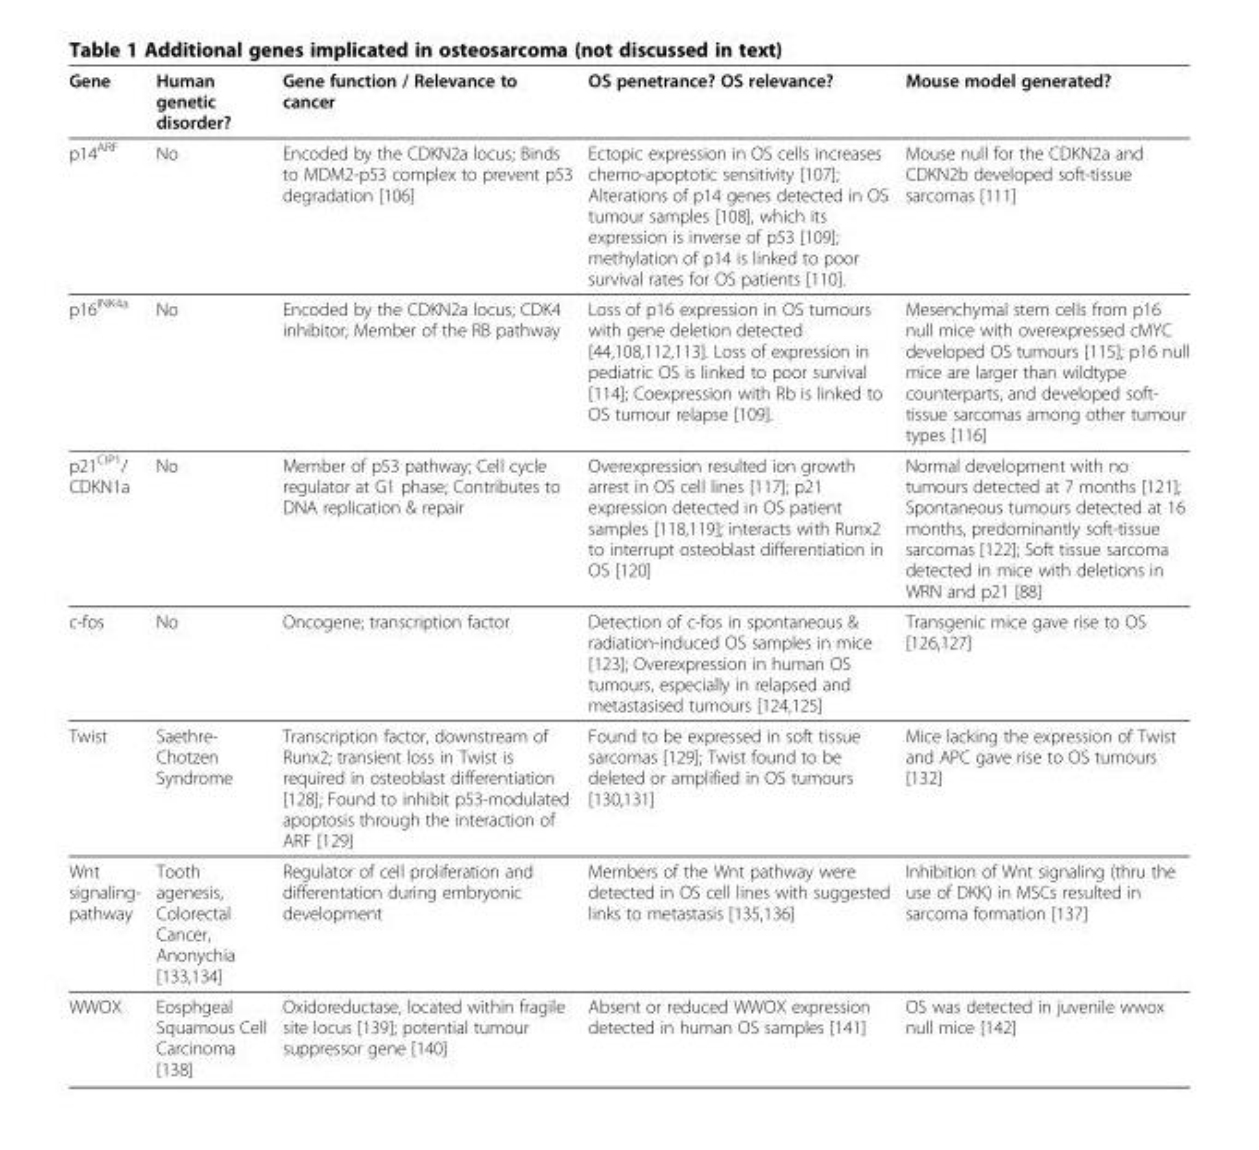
<table><thead><tr><td>Gene</td><td>Human genetic disorder?</td><td>Gene function / Relevance to cancer</td><td>OS penetrance? OS relevance?</td><td>Mouse model generated?</td></tr></thead><tbody><tr><td>p14<sup>ARF</sup></td><td>No</td><td>Encoded by the CDKN2a locus; Binds to MDM2-p53 complex to prevent p53 degradation [106]</td><td>Ectopic expression in OS cells increases chemo-apoptotic sensitivity [107]; Alterations of p14 genes detected in OS tumour samples [108], which its expression is inverse of p53 [109]; methylation of p14 is linked to poor survival rates for OS patients [110].</td><td>Mouse null for the CDKN2a and CDKN2b developed soft-tissue sarcomas [111]</td></tr><tr><td>p16<sup>INK4a</sup></td><td>No</td><td>Encoded by the CDKN2a locus; CDK4 inhibitor; Member of the RB pathway</td><td>Loss of p16 expression in OS tumours with gene deletion detected [44,108,112,113]. Loss of expression in pediatric OS is linked to poor survival [114]; Coexpression with Rb is linked to OS tumour relapse [109].</td><td>Mesenchymal stem cells from p16 null mice with overexpressed cMYC developed OS tumours [115]; p16 null mice are larger than wildtype counterparts, and developed soft- tissue sarcomas among other tumour types [116]</td></tr><tr><td>p21<sup>CIP1</sup>/ CDKN1a</td><td>No</td><td>Member of p53 pathway; Cell cycle regulator at G1 phase; Contributes to DNA replication &amp; repair</td><td>Overexpression resulted ion growth arrest in OS cell lines [117]; p21 expression detected in OS patient samples [118,119]; interacts with Runx2 to interrupt osteoblast differentiation in OS [120]</td><td>Normal development with no tumours detected at 7 months [121]; Spontaneous tumours detected at 16 months, predominantly soft-tissue sarcomas [122]; Soft tissue sarcoma detected in mice with deletions in WRN and p21 [88]</td></tr><tr><td>c-fos</td><td>No</td><td>Oncogene; transcription factor</td><td>Detection of c-fos in spontaneous &amp; radiation-induced OS samples in mice [123]; Overexpression in human OS tumours, especially in relapsed and metastasised tumours [124,125]</td><td>Transgenic mice gave rise to OS [126,127]</td></tr><tr><td>Twist</td><td>Saethre- Chotzen Syndrome</td><td>Transcription factor, downstream of Runx2; transient loss in Twist is required in osteoblast differentiation [128]; Found to inhibit p53-modulated apoptosis through the interaction of ARF [129]</td><td>Found to be expressed in soft tissue sarcomas [129]; Twist found to be deleted or amplified in OS tumours [130,131]</td><td>Mice lacking the expression of Twist and APC gave rise to OS tumours [132]</td></tr><tr><td>Wnt signaling- pathway</td><td>Tooth agenesis, Colorectal Cancer, Anonychia [133,134]</td><td>Regulator of cell proliferation and differentation during embryonic development</td><td>Members of the Wnt pathway were detected in OS cell lines with suggested links to metastasis [135,136]</td><td>Inhibition of Wnt signaling (thru the use of DKK) in MSCs resulted in sarcoma formation [137]</td></tr><tr><td>WWOX</td><td>Eosphgeal Squamous Cell Carcinoma [138]</td><td>Oxidoreductase, located within fragile site locus [139]; potential tumour suppressor gene [140]</td><td>Absent or reduced WWOX expression detected in human OS samples [141]</td><td>OS was detected in juvenile wwox null mice [142]</td></tr></tbody></table>